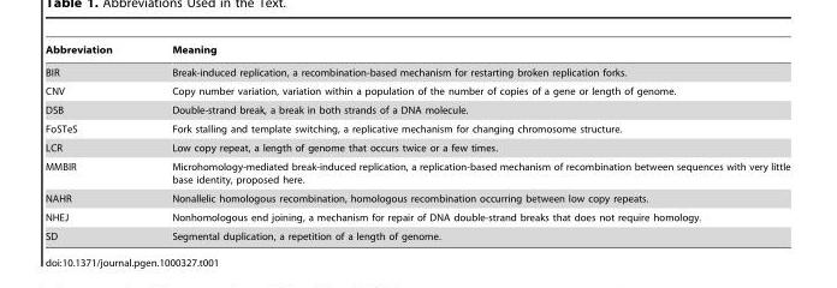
<table><thead><tr><td>Abbreviation</td><td>Meaning</td></tr></thead><tbody><tr><td>BIR</td><td>Break-induced replication, a recombination-based mechanism for restarting broken replication forks.</td></tr><tr><td>CNV</td><td>Copy number variation, variation within a population of the number of copies of a gene or length of genome.</td></tr><tr><td>DSB</td><td>Double-strand break, a break in both strands of a DNA molecule.</td></tr><tr><td>FoSTeS</td><td>Fork stalling and template switching, a replicative mechanism for changing chromosome structure.</td></tr><tr><td>LCR</td><td>Low copy repeat, a length of genome that occurs twice or a few times.</td></tr><tr><td>MMBIR</td><td>Microhomology-mediated break-induced replication, a replication-based mechanism of recombination between sequences with very little base identity, proposed here.</td></tr><tr><td>NAHR</td><td>Nonallelic homologous recombination, homologous recombination occurring between low copy repeats.</td></tr><tr><td>NHEJ</td><td>Nonhomologous end joining, a mechanism for repair of DNA double-strand breaks that does not require homology.</td></tr><tr><td>SD</td><td>Segmental duplication, a repetition of a length of genome.</td></tr></tbody></table>